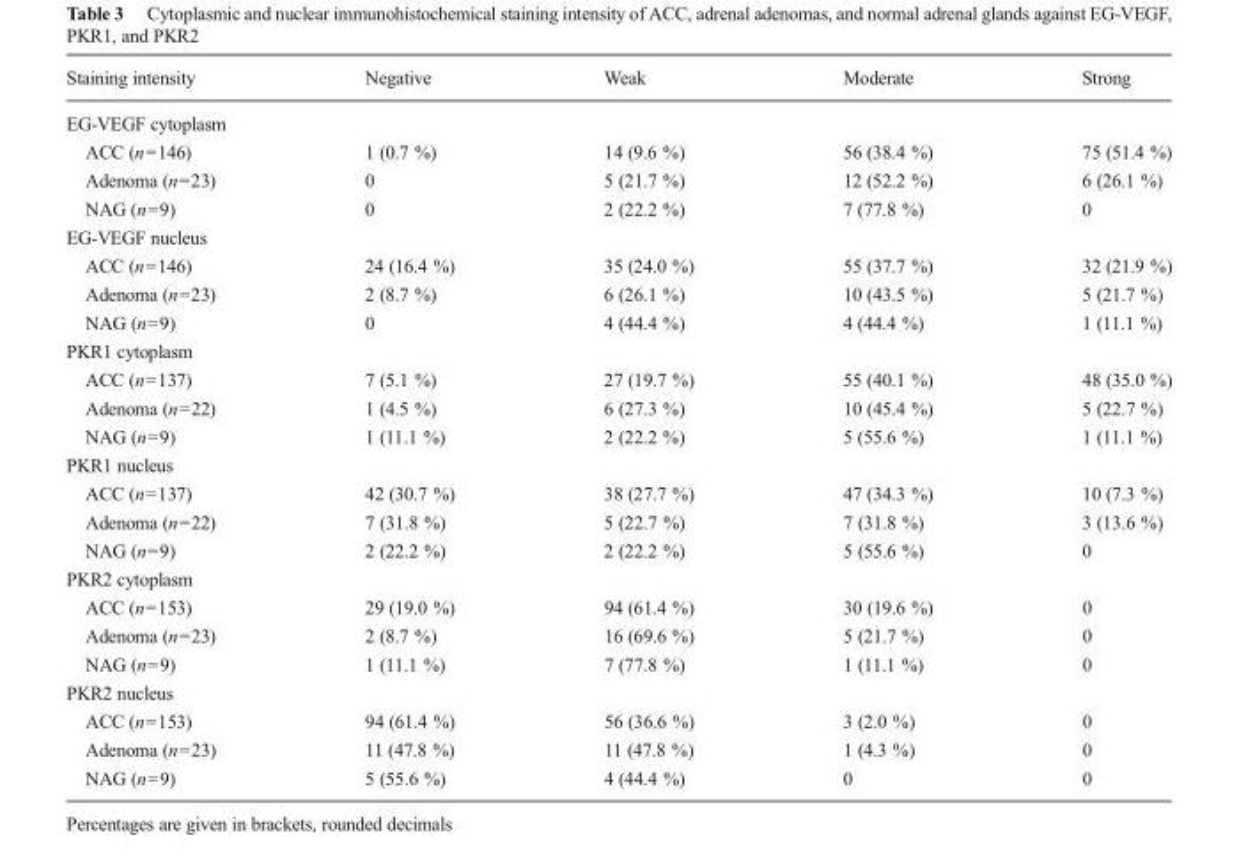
<table><thead><tr><td>Staining intensity</td><td>Negative</td><td>Weak</td><td>Moderate</td><td>Strong</td></tr></thead><tbody><tr><td colspan="5">EG-VEGF cytoplasm</td></tr><tr><td>ACC (n=146)</td><td>1 (0.7 %)</td><td>14 (9.6 %)</td><td>56 (38.4 %)</td><td>75 (51.4 %)</td></tr><tr><td>Adenoma (n=23)</td><td>0</td><td>5 (21.7 %)</td><td>12 (52.2 %)</td><td>6 (26.1 %)</td></tr><tr><td>NAG (n=9)</td><td>0</td><td>2 (22.2 %)</td><td>7 (77.8 %)</td><td>0</td></tr><tr><td colspan="5">EG-VEGF nucleus</td></tr><tr><td>ACC (n=146)</td><td>24 (16.4 %)</td><td>35 (24.0 %)</td><td>55 (37.7 %)</td><td>32 (21.9 %)</td></tr><tr><td>Adenoma (n=23)</td><td>2 (8.7 %)</td><td>6 (26.1 %)</td><td>10 (43.5 %)</td><td>5 (21.7 %)</td></tr><tr><td>NAG (n=9)</td><td>0</td><td>4 (44.4 %)</td><td>4 (44.4 %)</td><td>1 (11.1 %)</td></tr><tr><td colspan="5">PKR1 cytoplasm</td></tr><tr><td>ACC (n=137)</td><td>7 (5.1 %)</td><td>27 (19.7 %)</td><td>55 (40.1 %)</td><td>48 (35.0 %)</td></tr><tr><td>Adenoma (n=22)</td><td>1 (4.5 %)</td><td>6 (27.3 %)</td><td>10 (45.4 %)</td><td>5 (22.7 %)</td></tr><tr><td>NAG (n=9)</td><td>1 (11.1 %)</td><td>2 (22.2 %)</td><td>5 (55.6 %)</td><td>1 (11.1 %)</td></tr><tr><td colspan="5">PKR1 nucleus</td></tr><tr><td>ACC (n=137)</td><td>42 (30.7 %)</td><td>38 (27.7 %)</td><td>47 (34.3 %)</td><td>10 (7.3 %)</td></tr><tr><td>Adenoma (n=22)</td><td>7 (31.8 %)</td><td>5 (22.7 %)</td><td>7 (31.8 %)</td><td>3 (13.6 %)</td></tr><tr><td>NAG (n=9)</td><td>2 (22.2 %)</td><td>2 (22.2 %)</td><td>5 (55.6 %)</td><td>0</td></tr><tr><td colspan="5">PKR2 cytoplasm</td></tr><tr><td>ACC (n=153)</td><td>29 (19.0 %)</td><td>94 (61.4 %)</td><td>30 (19.6 %)</td><td>0</td></tr><tr><td>Adenoma (n=23)</td><td>2 (8.7 %)</td><td>16 (69.6 %)</td><td>5 (21.7 %)</td><td>0</td></tr><tr><td>NAG (n=9)</td><td>1 (11.1 %)</td><td>7 (77.8 %)</td><td>1 (11.1 %)</td><td>0</td></tr><tr><td colspan="5">PKR2 nucleus</td></tr><tr><td>ACC (n=153)</td><td>94 (61.4 %)</td><td>56 (36.6 %)</td><td>3 (2.0 %)</td><td>0</td></tr><tr><td>Adenoma (n=23)</td><td>11 (47.8 %)</td><td>11 (47.8 %)</td><td>1 (4.3 %)</td><td>0</td></tr><tr><td>NAG (n=9)</td><td>5 (55.6 %)</td><td>4 (44.4 %)</td><td>0</td><td>0</td></tr></tbody></table>